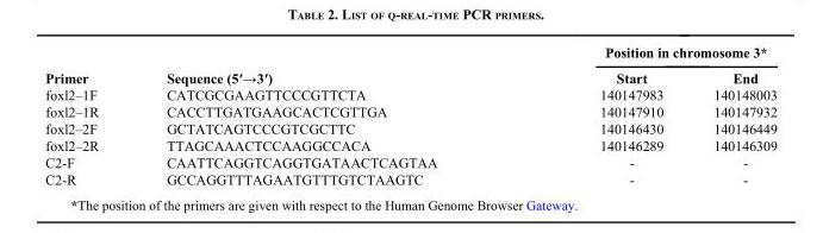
<table><thead><tr><td rowspan="2">Primer</td><td rowspan="2">Sequence (5′→3′)</td><td colspan="2">Position in chromosome 3*</td></tr><tr><td>Start</td><td>End</td></tr></thead><tbody><tr><td>foxl2–1F</td><td>CATCGCGAAGTTCCCGTTCTA</td><td>140147983</td><td>140148003</td></tr><tr><td>foxl2–1R</td><td>CACCTTGATGAAGCACTCGTTGA</td><td>140147910</td><td>140147932</td></tr><tr><td>foxl2–2F</td><td>GCTATCAGTCCCGTCGCTTC</td><td>140146430</td><td>140146449</td></tr><tr><td>foxl2–2R</td><td>TTAGCAAACTCCAAGGCCACA</td><td>140146289</td><td>140146309</td></tr><tr><td>C2-F</td><td>CAATTCAGGTCAGGTGATAACTCAGTAA</td><td>-</td><td>-</td></tr><tr><td>C2-R</td><td>GCCAGGTTTAGAATGTTTGTCTAAGTC</td><td>-</td><td>-</td></tr></tbody></table>